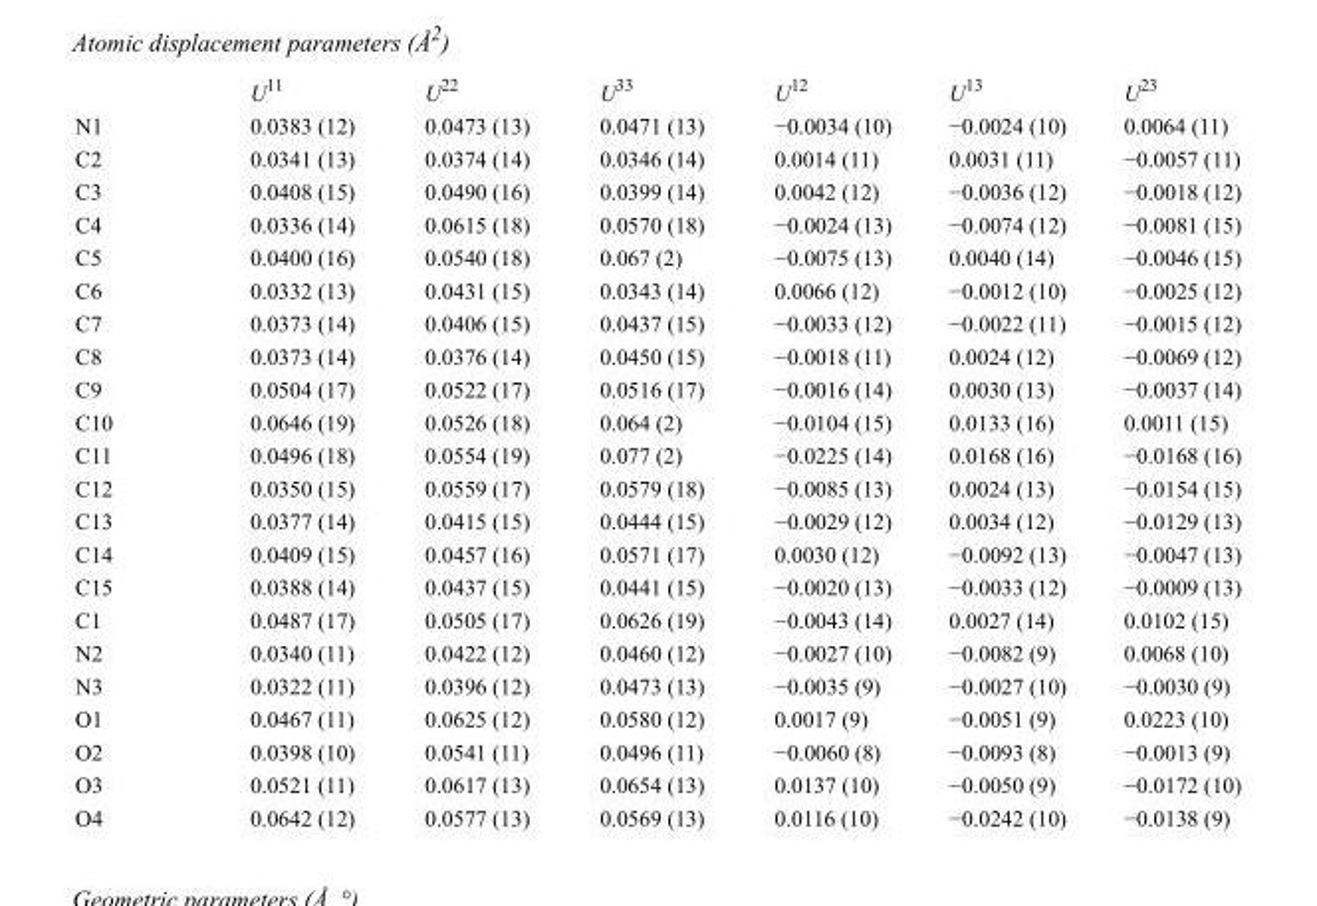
<table><thead><tr><td></td><td>U<sup>11</sup></td><td>U<sup>22</sup></td><td>U<sup>33</sup></td><td>U<sup>12</sup></td><td>U<sup>13</sup></td><td>U<sup>23</sup></td></tr></thead><tbody><tr><td>N1</td><td>0.0383 (12)</td><td>0.0473 (13)</td><td>0.0471 (13)</td><td>−0.0034 (10)</td><td>−0.0024 (10)</td><td>0.0064 (11)</td></tr><tr><td>C2</td><td>0.0341 (13)</td><td>0.0374 (14)</td><td>0.0346 (14)</td><td>0.0014 (11)</td><td>0.0031 (11)</td><td>−0.0057 (11)</td></tr><tr><td>C3</td><td>0.0408 (15)</td><td>0.0490 (16)</td><td>0.0399 (14)</td><td>0.0042 (12)</td><td>−0.0036 (12)</td><td>−0.0018 (12)</td></tr><tr><td>C4</td><td>0.0336 (14)</td><td>0.0615 (18)</td><td>0.0570 (18)</td><td>−0.0024 (13)</td><td>−0.0074 (12)</td><td>−0.0081 (15)</td></tr><tr><td>C5</td><td>0.0400 (16)</td><td>0.0540 (18)</td><td>0.067 (2)</td><td>−0.0075 (13)</td><td>0.0040 (14)</td><td>−0.0046 (15)</td></tr><tr><td>C6</td><td>0.0332 (13)</td><td>0.0431 (15)</td><td>0.0343 (14)</td><td>0.0066 (12)</td><td>−0.0012 (10)</td><td>−0.0025 (12)</td></tr><tr><td>C7</td><td>0.0373 (14)</td><td>0.0406 (15)</td><td>0.0437 (15)</td><td>−0.0033 (12)</td><td>−0.0022 (11)</td><td>−0.0015 (12)</td></tr><tr><td>C8</td><td>0.0373 (14)</td><td>0.0376 (14)</td><td>0.0450 (15)</td><td>−0.0018 (11)</td><td>0.0024 (12)</td><td>−0.0069 (12)</td></tr><tr><td>C9</td><td>0.0504 (17)</td><td>0.0522 (17)</td><td>0.0516 (17)</td><td>−0.0016 (14)</td><td>0.0030 (13)</td><td>−0.0037 (14)</td></tr><tr><td>C10</td><td>0.0646 (19)</td><td>0.0526 (18)</td><td>0.064 (2)</td><td>−0.0104 (15)</td><td>0.0133 (16)</td><td>0.0011 (15)</td></tr><tr><td>C11</td><td>0.0496 (18)</td><td>0.0554 (19)</td><td>0.077 (2)</td><td>−0.0225 (14)</td><td>0.0168 (16)</td><td>−0.0168 (16)</td></tr><tr><td>C12</td><td>0.0350 (15)</td><td>0.0559 (17)</td><td>0.0579 (18)</td><td>−0.0085 (13)</td><td>0.0024 (13)</td><td>−0.0154 (15)</td></tr><tr><td>C13</td><td>0.0377 (14)</td><td>0.0415 (15)</td><td>0.0444 (15)</td><td>−0.0029 (12)</td><td>0.0034 (12)</td><td>−0.0129 (13)</td></tr><tr><td>C14</td><td>0.0409 (15)</td><td>0.0457 (16)</td><td>0.0571 (17)</td><td>0.0030 (12)</td><td>−0.0092 (13)</td><td>−0.0047 (13)</td></tr><tr><td>C15</td><td>0.0388 (14)</td><td>0.0437 (15)</td><td>0.0441 (15)</td><td>−0.0020 (13)</td><td>−0.0033 (12)</td><td>−0.0009 (13)</td></tr><tr><td>C1</td><td>0.0487 (17)</td><td>0.0505 (17)</td><td>0.0626 (19)</td><td>−0.0043 (14)</td><td>0.0027 (14)</td><td>0.0102 (15)</td></tr><tr><td>N2</td><td>0.0340 (11)</td><td>0.0422 (12)</td><td>0.0460 (12)</td><td>−0.0027 (10)</td><td>−0.0082 (9)</td><td>0.0068 (10)</td></tr><tr><td>N3</td><td>0.0322 (11)</td><td>0.0396 (12)</td><td>0.0473 (13)</td><td>−0.0035 (9)</td><td>−0.0027 (10)</td><td>−0.0030 (9)</td></tr><tr><td>O1</td><td>0.0467 (11)</td><td>0.0625 (12)</td><td>0.0580 (12)</td><td>0.0017 (9)</td><td>−0.0051 (9)</td><td>0.0223 (10)</td></tr><tr><td>O2</td><td>0.0398 (10)</td><td>0.0541 (11)</td><td>0.0496 (11)</td><td>−0.0060 (8)</td><td>−0.0093 (8)</td><td>−0.0013 (9)</td></tr><tr><td>O3</td><td>0.0521 (11)</td><td>0.0617 (13)</td><td>0.0654 (13)</td><td>0.0137 (10)</td><td>−0.0050 (9)</td><td>−0.0172 (10)</td></tr><tr><td>O4</td><td>0.0642 (12)</td><td>0.0577 (13)</td><td>0.0569 (13)</td><td>0.0116 (10)</td><td>−0.0242 (10)</td><td>−0.0138 (9)</td></tr></tbody></table>